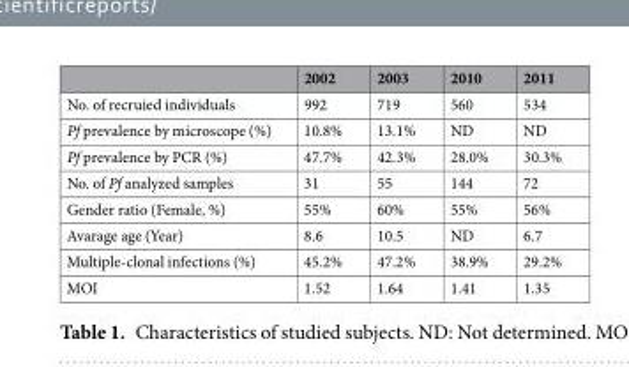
<table><thead><tr><td></td><td>2002</td><td>2003</td><td>2010</td><td>2011</td></tr></thead><tbody><tr><td>No. of recruied individuals</td><td>992</td><td>719</td><td>560</td><td>534</td></tr><tr><td>Pf prevalence by microscope (%)</td><td>10.8%</td><td>13.1%</td><td>ND</td><td>ND</td></tr><tr><td>Pf prevalence by PCR (%)</td><td>47.7%</td><td>42.3%</td><td>28.0%</td><td>30.3%</td></tr><tr><td>No. of Pf analyzed samples</td><td>31</td><td>55</td><td>144</td><td>72</td></tr><tr><td>Gender ratio (Female, %)</td><td>55%</td><td>60%</td><td>55%</td><td>56%</td></tr><tr><td>Avarage age (Year)</td><td>8.6</td><td>10.5</td><td>ND</td><td>6.7</td></tr><tr><td>Multiple-clonal infections (%)</td><td>45.2%</td><td>47.2%</td><td>38.9%</td><td>29.2%</td></tr><tr><td>MOI</td><td>1.52</td><td>1.64</td><td>1.41</td><td>1.35</td></tr></tbody></table>